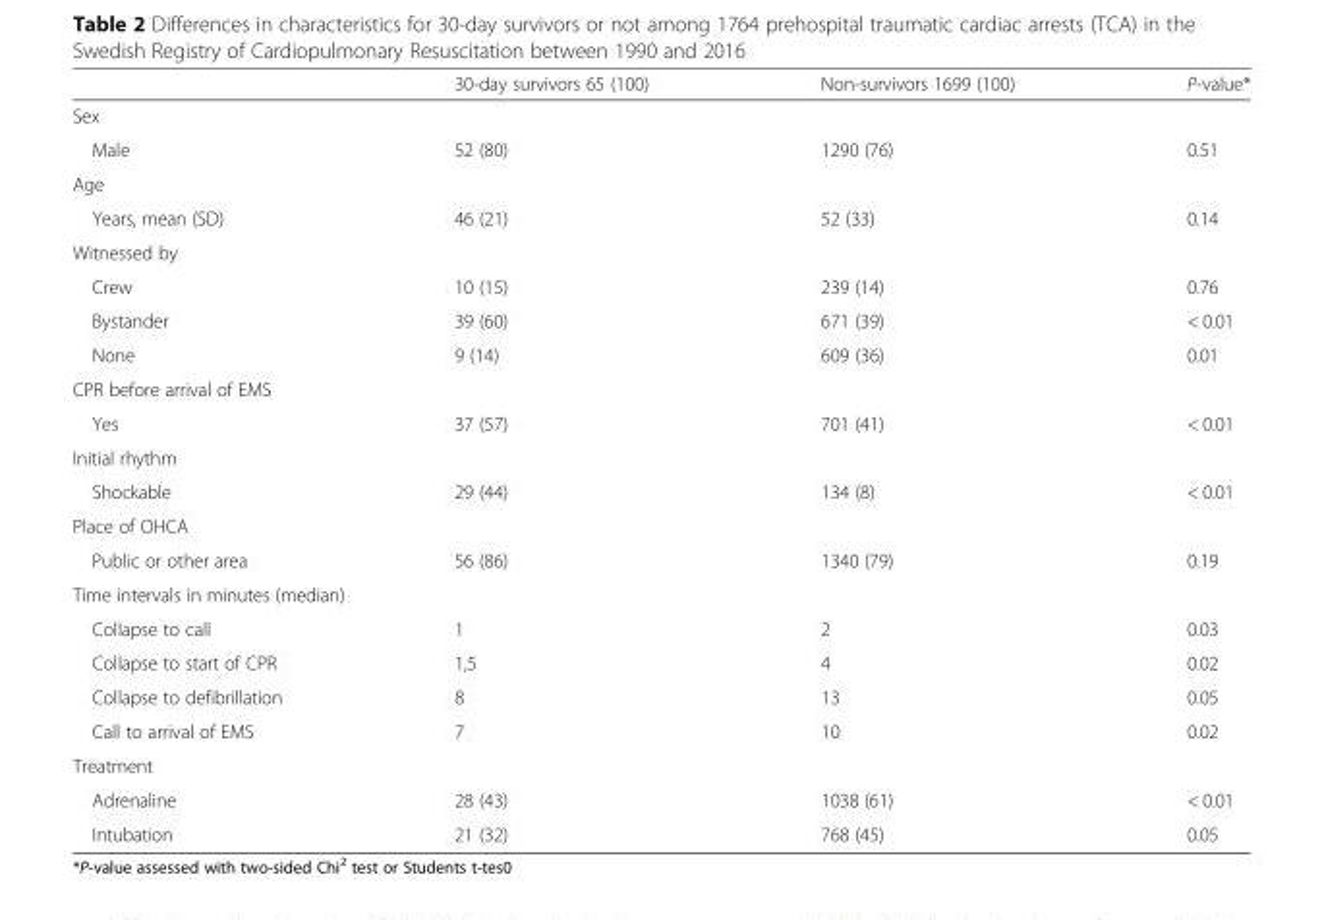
<table><thead><tr><td></td><td>30-day survivors 65 (100)</td><td>Non-survivors 1699 (100)</td><td>P-value*</td></tr></thead><tbody><tr><td colspan="4">Sex</td></tr><tr><td>Male</td><td>52 (80)</td><td>1290 (76)</td><td>0.51</td></tr><tr><td colspan="4">Age</td></tr><tr><td>Years, mean (SD)</td><td>46 (21)</td><td>52 (33)</td><td>0.14</td></tr><tr><td colspan="4">Witnessed by</td></tr><tr><td>Crew</td><td>10 (15)</td><td>239 (14)</td><td>0.76</td></tr><tr><td>Bystander</td><td>39 (60)</td><td>671 (39)</td><td>&lt; 0.01</td></tr><tr><td>None</td><td>9 (14)</td><td>609 (36)</td><td>0.01</td></tr><tr><td colspan="4">CPR before arrival of EMS</td></tr><tr><td>Yes</td><td>37 (57)</td><td>701 (41)</td><td>&lt; 0.01</td></tr><tr><td colspan="4">Initial rhythm</td></tr><tr><td>Shockable</td><td>29 (44)</td><td>134 (8)</td><td>&lt; 0.01</td></tr><tr><td colspan="4">Place of OHCA</td></tr><tr><td>Public or other area</td><td>56 (86)</td><td>1340 (79)</td><td>0.19</td></tr><tr><td colspan="4">Time intervals in minutes (median)</td></tr><tr><td>Collapse to call</td><td>1</td><td>2</td><td>0.03</td></tr><tr><td>Collapse to start of CPR</td><td>1,5</td><td>4</td><td>0.02</td></tr><tr><td>Collapse to defibrillation</td><td>8</td><td>13</td><td>0.05</td></tr><tr><td>Call to arrival of EMS</td><td>7</td><td>10</td><td>0.02</td></tr><tr><td colspan="4">Treatment</td></tr><tr><td>Adrenaline</td><td>28 (43)</td><td>1038 (61)</td><td>&lt; 0.01</td></tr><tr><td>Intubation</td><td>21 (32)</td><td>768 (45)</td><td>0.05</td></tr></tbody></table>